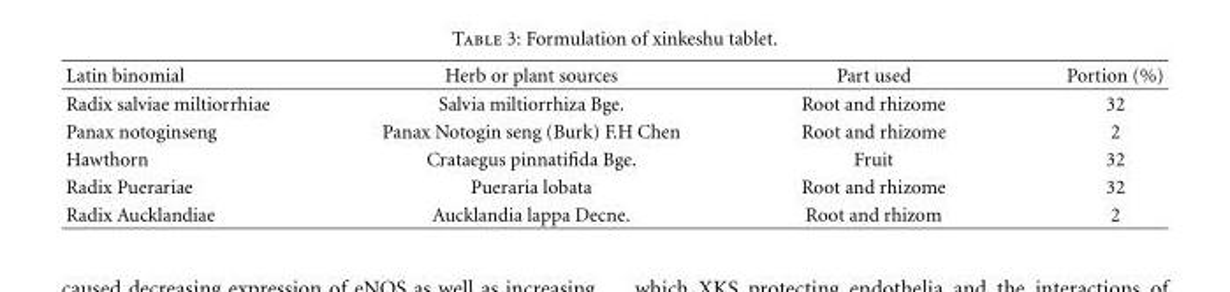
<table><thead><tr><td>Latin binomial</td><td>Herb or plant sources</td><td>Part used</td><td>Portion (%)</td></tr></thead><tbody><tr><td>Radix salviae miltiorrhiae</td><td>Salvia miltiorrhiza Bge.</td><td>Root and rhizome</td><td>32</td></tr><tr><td>Panax notoginseng</td><td>Panax Notogin seng (Burk) F.H Chen</td><td>Root and rhizome</td><td>2</td></tr><tr><td>Hawthorn</td><td>Crataegus pinnatifida Bge.</td><td>Fruit</td><td>32</td></tr><tr><td>Radix Puerariae</td><td>Pueraria lobata</td><td>Root and rhizome</td><td>32</td></tr><tr><td>Radix Aucklandiae</td><td>Aucklandia lappa Decne.</td><td>Root and rhizom</td><td>2</td></tr></tbody></table>